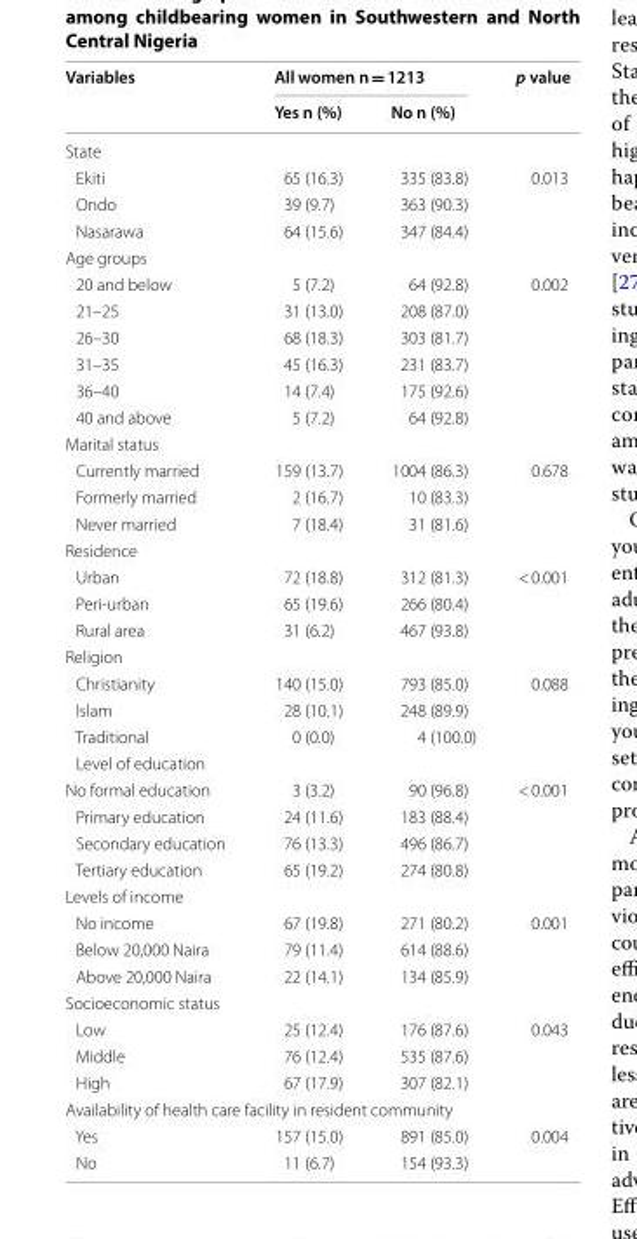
<table><thead><tr><td rowspan="2">Variables</td><td colspan="2">All women n = 1213</td><td rowspan="2">p value</td></tr><tr><td>Yes n (%)</td><td>No n (%)</td></tr></thead><tbody><tr><td colspan="4">State</td></tr><tr><td>Ekiti</td><td>65 (16.3)</td><td>335 (83.8)</td><td>0.013</td></tr><tr><td>Ondo</td><td>39 (9.7)</td><td>363 (90.3)</td><td></td></tr><tr><td>Nasarawa</td><td>64 (15.6)</td><td>347 (84.4)</td><td></td></tr><tr><td colspan="4">Age groups</td></tr><tr><td>20 and below</td><td>5 (7.2)</td><td>64 (92.8)</td><td>0.002</td></tr><tr><td>21–25</td><td>31 (13.0)</td><td>208 (87.0)</td><td></td></tr><tr><td>26–30</td><td>68 (18.3)</td><td>303 (81.7)</td><td></td></tr><tr><td>31–35</td><td>45 (16.3)</td><td>231 (83.7)</td><td></td></tr><tr><td>36–40</td><td>14 (7.4)</td><td>175 (92.6)</td><td></td></tr><tr><td>40 and above</td><td>5 (7.2)</td><td>64 (92.8)</td><td></td></tr><tr><td colspan="4">Marital status</td></tr><tr><td>Currently married</td><td>159 (13.7)</td><td>1004 (86.3)</td><td>0.678</td></tr><tr><td>Formerly married</td><td>2 (16.7)</td><td>10 (83.3)</td><td></td></tr><tr><td>Never married</td><td>7 (18.4)</td><td>31 (81.6)</td><td></td></tr><tr><td colspan="4">Residence</td></tr><tr><td>Urban</td><td>72 (18.8)</td><td>312 (81.3)</td><td>&lt; 0.001</td></tr><tr><td>Peri-urban</td><td>65 (19.6)</td><td>266 (80.4)</td><td></td></tr><tr><td>Rural area</td><td>31 (6.2)</td><td>467 (93.8)</td><td></td></tr><tr><td colspan="4">Religion</td></tr><tr><td>Christianity</td><td>140 (15.0)</td><td>793 (85.0)</td><td>0.088</td></tr><tr><td>Islam</td><td>28 (10.1)</td><td>248 (89.9)</td><td></td></tr><tr><td>Traditional</td><td>0 (0.0)</td><td>4 (100.0)</td><td></td></tr><tr><td colspan="4">Level of education</td></tr><tr><td>No formal education</td><td>3 (3.2)</td><td>90 (96.8)</td><td>&lt; 0.001</td></tr><tr><td>Primary education</td><td>24 (11.6)</td><td>183 (88.4)</td><td></td></tr><tr><td>Secondary education</td><td>76 (13.3)</td><td>496 (86.7)</td><td></td></tr><tr><td>Tertiary education</td><td>65 (19.2)</td><td>274 (80.8)</td><td></td></tr><tr><td colspan="4">Levels of income</td></tr><tr><td>No income</td><td>67 (19.8)</td><td>271 (80.2)</td><td>0.001</td></tr><tr><td>Below 20,000 Naira</td><td>79 (11.4)</td><td>614 (88.6)</td><td></td></tr><tr><td>Above 20,000 Naira</td><td>22 (14.1)</td><td>134 (85.9)</td><td></td></tr><tr><td colspan="4">Socioeconomic status</td></tr><tr><td>Low</td><td>25 (12.4)</td><td>176 (87.6)</td><td>0.043</td></tr><tr><td>Middle</td><td>76 (12.4)</td><td>535 (87.6)</td><td></td></tr><tr><td>High</td><td>67 (17.9)</td><td>307 (82.1)</td><td></td></tr><tr><td colspan="4">Availability of health care facility in resident community</td></tr><tr><td>Yes</td><td>157 (15.0)</td><td>891 (85.0)</td><td>0.004</td></tr><tr><td>No</td><td>11 (6.7)</td><td>154 (93.3)</td><td></td></tr></tbody></table>